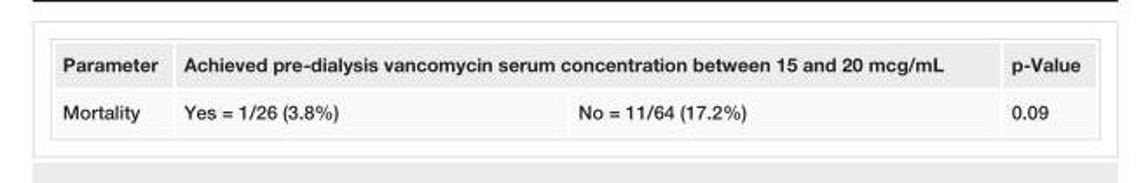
<table><tbody><tr><td>Parameter</td><td colspan="2">Achieved pre-dialysis vancomycin serum concentration between 15 and 20 mcg/mL</td><td>p-Value</td></tr><tr><td>Mortality</td><td>Yes = 1/26 (3.8%)</td><td>No = 11/64 (17.2%)</td><td>0.09</td></tr></tbody></table>